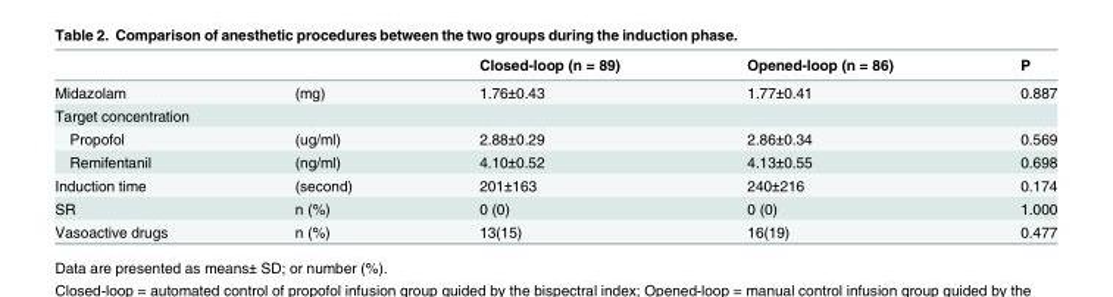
<table><thead><tr><td></td><td></td><td>Closed-loop (n = 89)</td><td>Opened-loop (n = 86)</td><td>P</td></tr></thead><tbody><tr><td>Midazolam</td><td>(mg)</td><td>1.76±0.43</td><td>1.77±0.41</td><td>0.887</td></tr><tr><td colspan="5">Target concentration</td></tr><tr><td>Propofol</td><td>(ug/ml)</td><td>2.88±0.29</td><td>2.86±0.34</td><td>0.569</td></tr><tr><td>Remifentanil</td><td>(ng/ml)</td><td>4.10±0.52</td><td>4.13±0.55</td><td>0.698</td></tr><tr><td>Induction time</td><td>(second)</td><td>201±163</td><td>240±216</td><td>0.174</td></tr><tr><td>SR</td><td>n (%)</td><td>0 (0)</td><td>0 (0)</td><td>1.000</td></tr><tr><td>Vasoactive drugs</td><td>n (%)</td><td>13(15)</td><td>16(19)</td><td>0.477</td></tr></tbody></table>